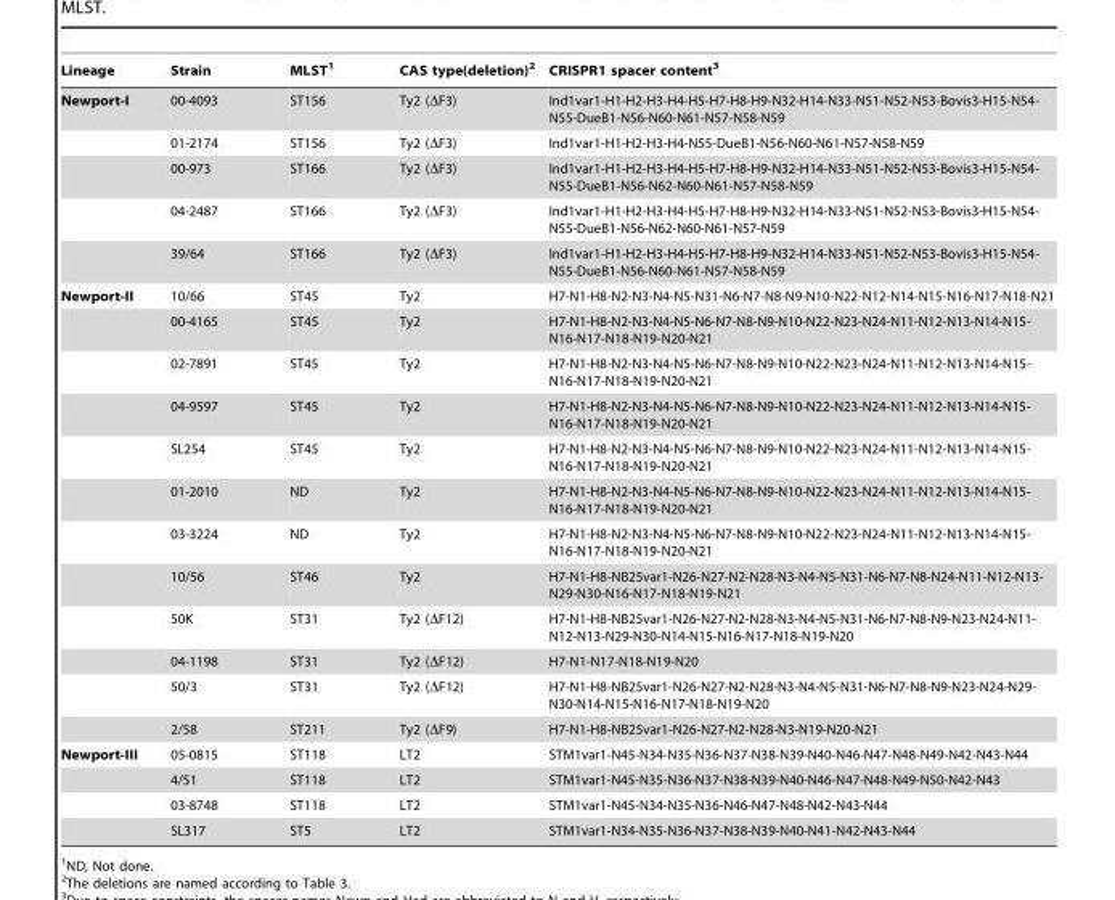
<table><thead><tr><td>Lineage</td><td>Strain</td><td>MLST<sup>1</sup></td><td>CAS type(deletion)<sup>2</sup></td><td>CRISPR1 spacer content<sup>3</sup></td></tr></thead><tbody><tr><td rowspan="5">Newport-I</td><td>00-4093</td><td>ST156</td><td>Ty2 (ΔF3)</td><td>Ind1var1-H1-H2-H3-H4-H5-H7-H8-H9-N32-H14-N33-N51-N52-N53-Bovis3-H15-N54- N55-DueB1-N56-N60-N61-N57-N58-N59</td></tr><tr><td>01-2174</td><td>ST156</td><td>Ty2 (ΔF3)</td><td>Ind1var1-H1-H2-H3-H4-N55-DueB1-N56-N60-N61-N57-N58-N59</td></tr><tr><td>00-973</td><td>ST166</td><td>Ty2 (ΔF3)</td><td>Ind1var1-H1-H2-H3-H4-H5-H7-H8-H9-N32-H14-N33-N51-N52-N53-Bovis3-H15-N54- N55-DueB1-N56-N62-N60-N61-N57-N58-N59</td></tr><tr><td>04-2487</td><td>ST166</td><td>Ty2 (ΔF3)</td><td>Ind1var1-H1-H2-H3-H4-H5-H7-H8-H9-N32-H14-N33-N51-N52-N53-Bovis3-H15-N54- N55-DueB1-N56-N62-N60-N61-N57-N59</td></tr><tr><td>39/64</td><td>ST166</td><td>Ty2 (ΔF3)</td><td>Ind1var1-H1-H2-H3-H4-H5-H7-H8-H9-N32-H14-N33-N51-N52-N53-Bovis3-H15-N54- N55-DueB1-N56-N60-N61-N57-N58-N59</td></tr><tr><td rowspan="12">Newport-II</td><td>10/66</td><td>ST45</td><td>Ty2</td><td>H7-N1-H8-N2-N3-N4-N5-N31-N6-N7-N8-N9-N10-N22-N12-N14-N15-N16-N17-N18-N21</td></tr><tr><td>00-4165</td><td>ST45</td><td>Ty2</td><td>H7-N1-H8-N2-N3-N4-N5-N6-N7-N8-N9-N10-N22-N23-N24-N11-N12-N13-N14-N15- N16-N17-N18-N19-N20-N21</td></tr><tr><td>02-7891</td><td>ST45</td><td>Ty2</td><td>H7-N1-H8-N2-N3-N4-N5-N6-N7-N8-N9-N10-N22-N23-N24-N11-N12-N13-N14-N15- N16-N17-N18-N19-N20-N21</td></tr><tr><td>04-9597</td><td>ST45</td><td>Ty2</td><td>H7-N1-H8-N2-N3-N4-N5-N6-N7-N8-N9-N10-N22-N23-N24-N11-N12-N13-N14-N15- N16-N17-N18-N19-N20-N21</td></tr><tr><td>SL254</td><td>ST45</td><td>Ty2</td><td>H7-N1-H8-N2-N3-N4-N5-N6-N7-N8-N9-N10-N22-N23-N24-N11-N12-N13-N14-N15- N16-N17-N18-N19-N20-N21</td></tr><tr><td>01-2010</td><td>ND</td><td>Ty2</td><td>H7-N1-H8-N2-N3-N4-N5-N6-N7-N8-N9-N10-N22-N23-N24-N11-N12-N13-N14-N15- N16-N17-N18-N19-N20-N21</td></tr><tr><td>03-3224</td><td>ND</td><td>Ty2</td><td>H7-N1-H8-N2-N3-N4-N5-N6-N7-N8-N9-N10-N22-N23-N24-N11-N12-N13-N14-N15- N16-N17-N18-N19-N20-N21</td></tr><tr><td>10/56</td><td>ST46</td><td>Ty2</td><td>H7-N1-H8-NB25var1-N26-N27-N2-N28-N3-N4-N5-N31-N6-N7-N8-N24-N11-N12-N13- N29-N30-N16-N17-N18-N19-N21</td></tr><tr><td>50K</td><td>ST31</td><td>Ty2 (ΔF12)</td><td>H7-N1-H8-NB25var1-N26-N27-N2-N28-N3-N4-N5-N31-N6-N7-N8-N9-N23-N24-N11- N12-N13-N29-N30-N14-N15-N16-N17-N18-N19-N20</td></tr><tr><td>04-1198</td><td>ST31</td><td>Ty2 (ΔF12)</td><td>H7-N1-N17-N18-N19-N20</td></tr><tr><td>50/3</td><td>ST31</td><td>Ty2 (ΔF12)</td><td>H7-N1-H8-NB25var1-N26-N27-N2-N28-N3-N4-N5-N31-N6-N7-N8-N9-N23-N24-N29- N30-N14-N15-N16-N17-N18-N19-N20</td></tr><tr><td>2/58</td><td>ST211</td><td>Ty2 (ΔF9)</td><td>H7-N1-H8-NB25var1-N26-N27-N2-N28-N3-N19-N20-N21</td></tr><tr><td rowspan="4">Newport-III</td><td>05-0815</td><td>ST118</td><td>LT2</td><td>STM1var1-N45-N34-N35-N36-N37-N38-N39-N40-N46-N47-N48-N49-N42-N43-N44</td></tr><tr><td>4/51</td><td>ST118</td><td>LT2</td><td>STM1var1-N45-N35-N36-N37-N38-N39-N40-N46-N47-N48-N49-N50-N42-N43</td></tr><tr><td>03-8748</td><td>ST118</td><td>LT2</td><td>STM1var1-N45-N34-N35-N36-N46-N47-N48-N42-N43-N44</td></tr><tr><td>SL317</td><td>ST5</td><td>LT2</td><td>STM1var1-N34-N35-N36-N37-N38-N39-N40-N41-N42-N43-N44</td></tr></tbody></table>